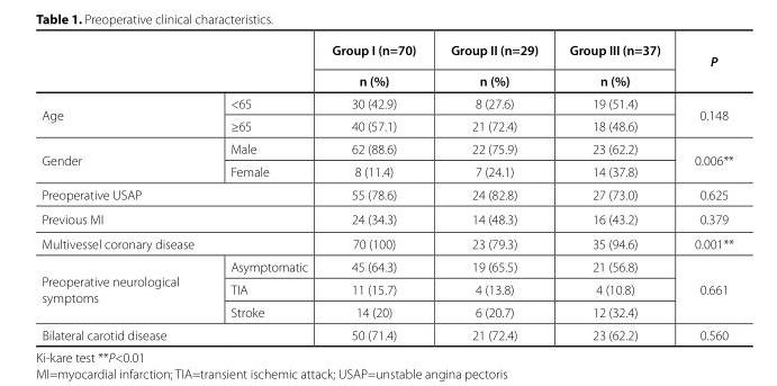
<table><thead><tr><td rowspan="2"></td><td rowspan="2"></td><td rowspan="2">Group I (n=70) n (%)</td><td rowspan="2">Group II (n=29) n (%)</td><td rowspan="2">Group III (n=37) n (%)</td><td rowspan="2">P</td></tr><tr></tr></thead><tbody><tr><td rowspan="2">Age</td><td>&lt;65</td><td>30 (42.9)</td><td>8 (27.6)</td><td>19 (51.4)</td><td rowspan="2">0.148</td></tr><tr><td>≥65</td><td>40 (57.1)</td><td>21 (72.4)</td><td>18 (48.6)</td></tr><tr><td rowspan="2">Gender</td><td>Male</td><td>62 (88.6)</td><td>22 (75.9)</td><td>23 (62.2)</td><td rowspan="2">0.006**</td></tr><tr><td>Female</td><td>8 (11.4)</td><td>7 (24.1)</td><td>14 (37.8)</td></tr><tr><td colspan="2">Preoperative USAP</td><td>55 (78.6)</td><td>24 (82.8)</td><td>27 (73.0)</td><td>0.625</td></tr><tr><td colspan="2">Previous MI</td><td>24 (34.3)</td><td>14 (48.3)</td><td>16 (43.2)</td><td>0.379</td></tr><tr><td colspan="2">Multivessel coronary disease</td><td>70 (100)</td><td>23 (79.3)</td><td>35 (94.6)</td><td>0.001**</td></tr><tr><td rowspan="3">Preoperative neurological symptoms</td><td>Asymptomatic</td><td>45 (64.3)</td><td>19 (65.5)</td><td>21 (56.8)</td><td rowspan="3">0.661</td></tr><tr><td>TIA</td><td>11 (15.7)</td><td>4 (13.8)</td><td>4 (10.8)</td></tr><tr><td>Stroke</td><td>14 (20)</td><td>6 (20.7)</td><td>12 (32.4)</td></tr><tr><td colspan="2">Bilateral carotid disease</td><td>50 (71.4)</td><td>21 (72.4)</td><td>23 (62.2)</td><td>0.560</td></tr></tbody></table>